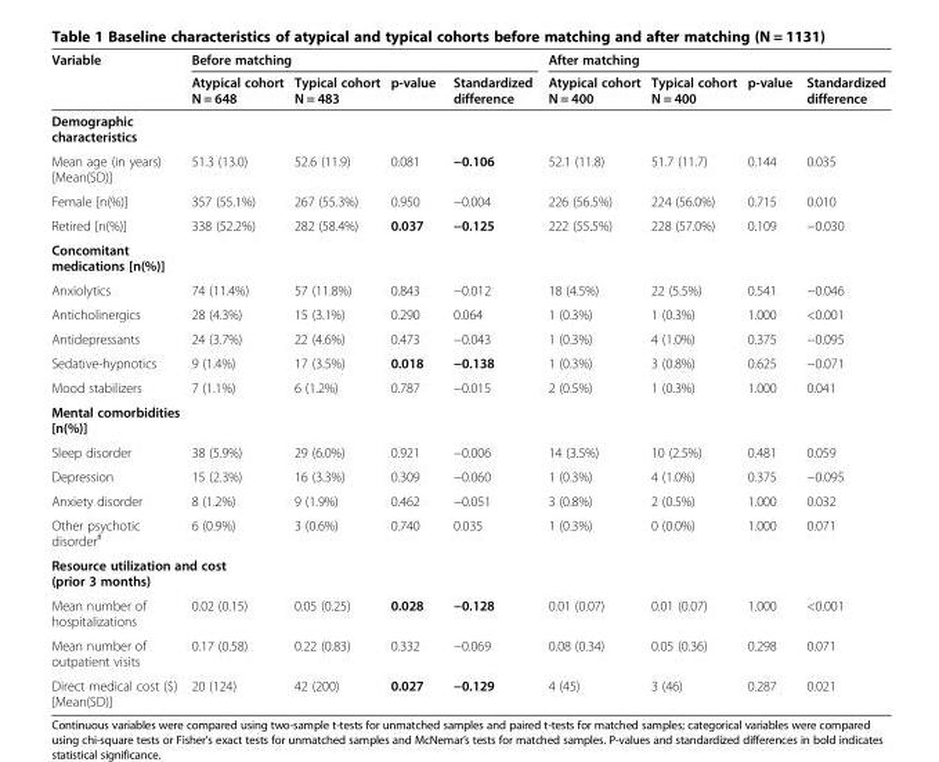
<table><thead><tr><td rowspan="2">Variable</td><td colspan="4">Before matching</td><td colspan="4">After matching</td></tr><tr><td>Atypical cohort N = 648</td><td>Typical cohort N = 483</td><td>p-value</td><td>Standardized difference</td><td>Atypical cohort N = 400</td><td>Typical cohort N = 400</td><td>p-value</td><td>Standardized difference</td></tr></thead><tbody><tr><td colspan="9">Demographic characteristics</td></tr><tr><td>Mean age (in years) [Mean(SD)]</td><td>51.3 (13.0)</td><td>52.6 (11.9)</td><td>0.081</td><td>−0.106</td><td>52.1 (11.8)</td><td>51.7 (11.7)</td><td>0.144</td><td>0.035</td></tr><tr><td>Female [n(%)]</td><td>357 (55.1%)</td><td>267 (55.3%)</td><td>0.950</td><td>−0.004</td><td>226 (56.5%)</td><td>224 (56.0%)</td><td>0.715</td><td>0.010</td></tr><tr><td>Retired [n(%)]</td><td>338 (52.2%)</td><td>282 (58.4%)</td><td>0.037</td><td>−0.125</td><td>222 (55.5%)</td><td>228 (57.0%)</td><td>0.109</td><td>−0.030</td></tr><tr><td colspan="9">Concomitant medications [n(%)]</td></tr><tr><td>Anxiolytics</td><td>74 (11.4%)</td><td>57 (11.8%)</td><td>0.843</td><td>−0.012</td><td>18 (4.5%)</td><td>22 (5.5%)</td><td>0.541</td><td>−0.046</td></tr><tr><td>Anticholinergics</td><td>28 (4.3%)</td><td>15 (3.1%)</td><td>0.290</td><td>0.064</td><td>1 (0.3%)</td><td>1 (0.3%)</td><td>1.000</td><td>&lt;0.001</td></tr><tr><td>Antidepressants</td><td>24 (3.7%)</td><td>22 (4.6%)</td><td>0.473</td><td>−0.043</td><td>1 (0.3%)</td><td>4 (1.0%)</td><td>0.375</td><td>−0.095</td></tr><tr><td>Sedative-hypnotics</td><td>9 (1.4%)</td><td>17 (3.5%)</td><td>0.018</td><td>−0.138</td><td>1 (0.3%)</td><td>3 (0.8%)</td><td>0.625</td><td>−0.071</td></tr><tr><td>Mood stabilizers</td><td>7 (1.1%)</td><td>6 (1.2%)</td><td>0.787</td><td>−0.015</td><td>2 (0.5%)</td><td>1 (0.3%)</td><td>1.000</td><td>0.041</td></tr><tr><td colspan="9">Mental comorbidities [n(%)]</td></tr><tr><td>Sleep disorder</td><td>38 (5.9%)</td><td>29 (6.0%)</td><td>0.921</td><td>−0.006</td><td>14 (3.5%)</td><td>10 (2.5%)</td><td>0.481</td><td>0.059</td></tr><tr><td>Depression</td><td>15 (2.3%)</td><td>16 (3.3%)</td><td>0.309</td><td>−0.060</td><td>1 (0.3%)</td><td>4 (1.0%)</td><td>0.375</td><td>−0.095</td></tr><tr><td>Anxiety disorder</td><td>8 (1.2%)</td><td>9 (1.9%)</td><td>0.462</td><td>−0.051</td><td>3 (0.8%)</td><td>2 (0.5%)</td><td>1.000</td><td>0.032</td></tr><tr><td>Other psychotic disorder<sup>#</sup></td><td>6 (0.9%)</td><td>3 (0.6%)</td><td>0.740</td><td>0.035</td><td>1 (0.3%)</td><td>0 (0.0%)</td><td>1.000</td><td>0.071</td></tr><tr><td colspan="9">Resource utilization and cost (prior 3 months)</td></tr><tr><td>Mean number of hospitalizations</td><td>0.02 (0.15)</td><td>0.05 (0.25)</td><td>0.028</td><td>−0.128</td><td>0.01 (0.07)</td><td>0.01 (0.07)</td><td>1.000</td><td>&lt;0.001</td></tr><tr><td>Mean number of outpatient visits</td><td>0.17 (0.58)</td><td>0.22 (0.83)</td><td>0.332</td><td>−0.069</td><td>0.08 (0.34)</td><td>0.05 (0.36)</td><td>0.298</td><td>0.071</td></tr><tr><td>Direct medical cost ($) [Mean(SD)]</td><td>20 (124)</td><td>42 (200)</td><td>0.027</td><td>−0.129</td><td>4 (45)</td><td>3 (46)</td><td>0.287</td><td>0.021</td></tr></tbody></table>